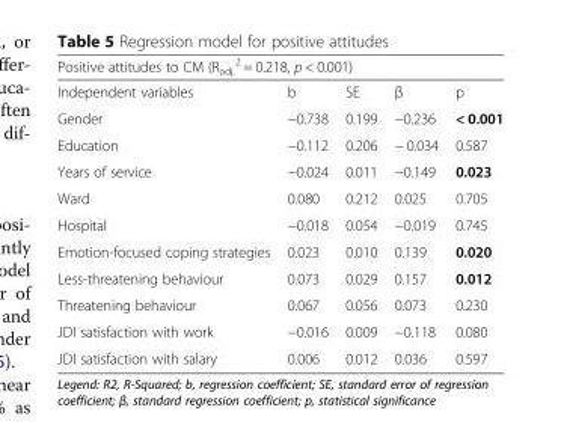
<table><thead><tr><td colspan="5">Positive attitudes to CM (R<sub>adj.</sub> <sup>2</sup> = 0.218, p &lt; 0.001)</td></tr><tr><td>Independent variables</td><td>b</td><td>SE</td><td>β</td><td>p</td></tr></thead><tbody><tr><td>Gender</td><td>−0.738</td><td>0.199</td><td>−0.236</td><td>&lt; 0.001</td></tr><tr><td>Education</td><td>−0.112</td><td>0.206</td><td>− 0.034</td><td>0.587</td></tr><tr><td>Years of service</td><td>−0.024</td><td>0.011</td><td>−0.149</td><td>0.023</td></tr><tr><td>Ward</td><td>0.080</td><td>0.212</td><td>0.025</td><td>0.705</td></tr><tr><td>Hospital</td><td>−0.018</td><td>0.054</td><td>−0.019</td><td>0.745</td></tr><tr><td>Emotion-focused coping strategies</td><td>0.023</td><td>0.010</td><td>0.139</td><td>0.020</td></tr><tr><td>Less-threatening behaviour</td><td>0.073</td><td>0.029</td><td>0.157</td><td>0.012</td></tr><tr><td>Threatening behaviour</td><td>0.067</td><td>0.056</td><td>0.073</td><td>0.230</td></tr><tr><td>JDI satisfaction with work</td><td>−0.016</td><td>0.009</td><td>−0.118</td><td>0.080</td></tr><tr><td>JDI satisfaction with salary</td><td>0.006</td><td>0.012</td><td>0.036</td><td>0.597</td></tr></tbody></table>